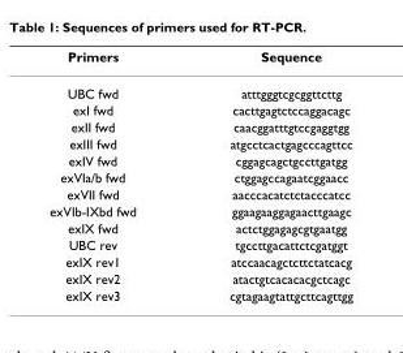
<table><thead><tr><td>Primers</td><td>Sequence</td></tr></thead><tbody><tr><td>UBC fwd</td><td>atttgggtcgcggttcttg</td></tr><tr><td>exI fwd</td><td>cacttgagtctccaggacagc</td></tr><tr><td>exII fwd</td><td>caacggatttgtccgaggtgg</td></tr><tr><td>exIII fwd</td><td>atgcctcactgagcccagttcc</td></tr><tr><td>exIV fwd</td><td>cggagcagctgccttgatgg</td></tr><tr><td>exVIa/b fwd</td><td>ctggagccagaatcggaacc</td></tr><tr><td>exVII fwd</td><td>aacccacatctctacccatcc</td></tr><tr><td>exVIb-IXbd fwd</td><td>ggaagaaggagaacttgaagc</td></tr><tr><td>exIX fwd</td><td>actctggagagcgtgaatgg</td></tr><tr><td>UBC rev</td><td>tgccttgacattctcgatggt</td></tr><tr><td>exIX rev1</td><td>atccaacagctcttctatcacg</td></tr><tr><td>exIX rev2</td><td>atactgtcacacacgctcagc</td></tr><tr><td>exIX rev3</td><td>cgtagaagtattgcttcagttgg</td></tr></tbody></table>